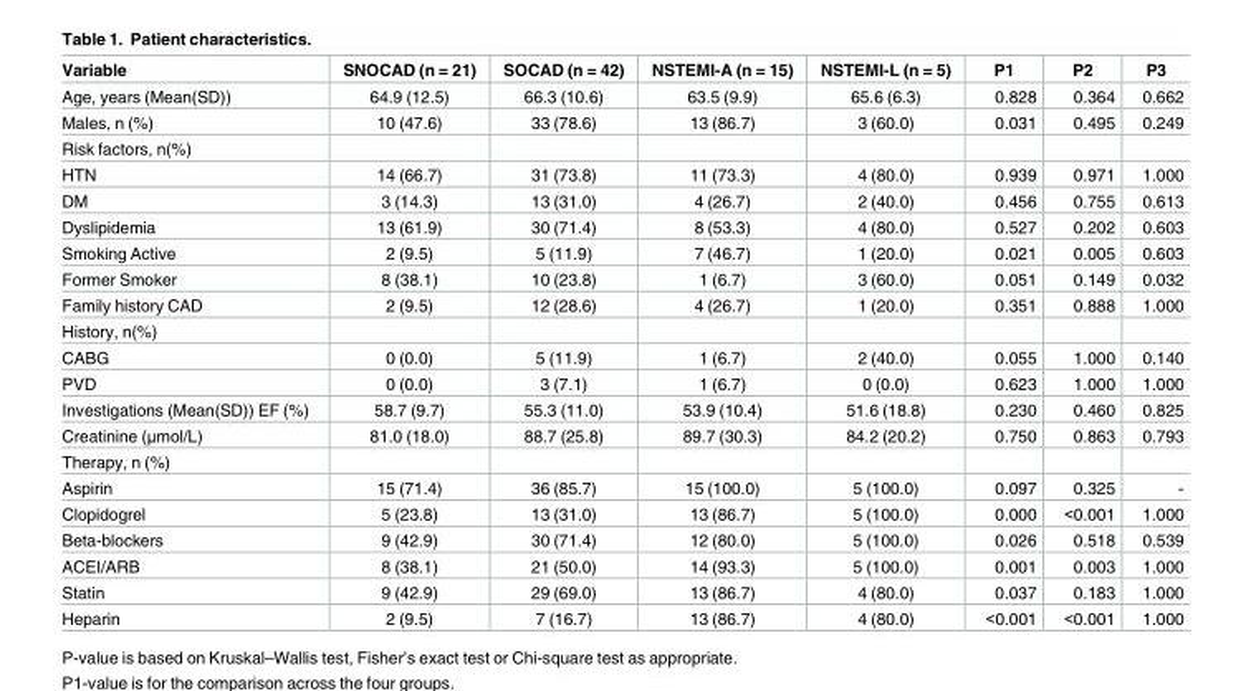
<table><thead><tr><td>Variable</td><td>SNOCAD (n = 21)</td><td>SOCAD (n = 42)</td><td>NSTEMI-A (n = 15)</td><td>NSTEMI-L (n = 5)</td><td>P1</td><td>P2</td><td>P3</td></tr></thead><tbody><tr><td>Age, years (Mean(SD))</td><td>64.9 (12.5)</td><td>66.3 (10.6)</td><td>63.5 (9.9)</td><td>65.6 (6.3)</td><td>0.828</td><td>0.364</td><td>0.662</td></tr><tr><td>Males, n (%)</td><td>10 (47.6)</td><td>33 (78.6)</td><td>13 (86.7)</td><td>3 (60.0)</td><td>0.031</td><td>0.495</td><td>0.249</td></tr><tr><td colspan="8">Risk factors, n(%)</td></tr><tr><td>HTN</td><td>14 (66.7)</td><td>31 (73.8)</td><td>11 (73.3)</td><td>4 (80.0)</td><td>0.939</td><td>0.971</td><td>1.000</td></tr><tr><td>DM</td><td>3 (14.3)</td><td>13 (31.0)</td><td>4 (26.7)</td><td>2 (40.0)</td><td>0.456</td><td>0.755</td><td>0.613</td></tr><tr><td>Dyslipidemia</td><td>13 (61.9)</td><td>30 (71.4)</td><td>8 (53.3)</td><td>4 (80.0)</td><td>0.527</td><td>0.202</td><td>0.603</td></tr><tr><td>Smoking Active</td><td>2 (9.5)</td><td>5 (11.9)</td><td>7 (46.7)</td><td>1 (20.0)</td><td>0.021</td><td>0.005</td><td>0.603</td></tr><tr><td>Former Smoker</td><td>8 (38.1)</td><td>10 (23.8)</td><td>1 (6.7)</td><td>3 (60.0)</td><td>0.051</td><td>0.149</td><td>0.032</td></tr><tr><td>Family history CAD</td><td>2 (9.5)</td><td>12 (28.6)</td><td>4 (26.7)</td><td>1 (20.0)</td><td>0.351</td><td>0.888</td><td>1.000</td></tr><tr><td colspan="8">History, n(%)</td></tr><tr><td>CABG</td><td>0 (0.0)</td><td>5 (11.9)</td><td>1 (6.7)</td><td>2 (40.0)</td><td>0.055</td><td>1.000</td><td>0.140</td></tr><tr><td>PVD</td><td>0 (0.0)</td><td>3 (7.1)</td><td>1 (6.7)</td><td>0 (0.0)</td><td>0.623</td><td>1.000</td><td>1.000</td></tr><tr><td>Investigations (Mean(SD)) EF (%)</td><td>58.7 (9.7)</td><td>55.3 (11.0)</td><td>53.9 (10.4)</td><td>51.6 (18.8)</td><td>0.230</td><td>0.460</td><td>0.825</td></tr><tr><td>Creatinine (μmol/L)</td><td>81.0 (18.0)</td><td>88.7 (25.8)</td><td>89.7 (30.3)</td><td>84.2 (20.2)</td><td>0.750</td><td>0.863</td><td>0.793</td></tr><tr><td colspan="8">Therapy, n (%)</td></tr><tr><td>Aspirin</td><td>15 (71.4)</td><td>36 (85.7)</td><td>15 (100.0)</td><td>5 (100.0)</td><td>0.097</td><td>0.325</td><td>-</td></tr><tr><td>Clopidogrel</td><td>5 (23.8)</td><td>13 (31.0)</td><td>13 (86.7)</td><td>5 (100.0)</td><td>0.000</td><td>&lt;0.001</td><td>1.000</td></tr><tr><td>Beta-blockers</td><td>9 (42.9)</td><td>30 (71.4)</td><td>12 (80.0)</td><td>5 (100.0)</td><td>0.026</td><td>0.518</td><td>0.539</td></tr><tr><td>ACEI/ARB</td><td>8 (38.1)</td><td>21 (50.0)</td><td>14 (93.3)</td><td>5 (100.0)</td><td>0.001</td><td>0.003</td><td>1.000</td></tr><tr><td>Statin</td><td>9 (42.9)</td><td>29 (69.0)</td><td>13 (86.7)</td><td>4 (80.0)</td><td>0.037</td><td>0.183</td><td>1.000</td></tr><tr><td>Heparin</td><td>2 (9.5)</td><td>7 (16.7)</td><td>13 (86.7)</td><td>4 (80.0)</td><td>&lt;0.001</td><td>&lt;0.001</td><td>1.000</td></tr></tbody></table>